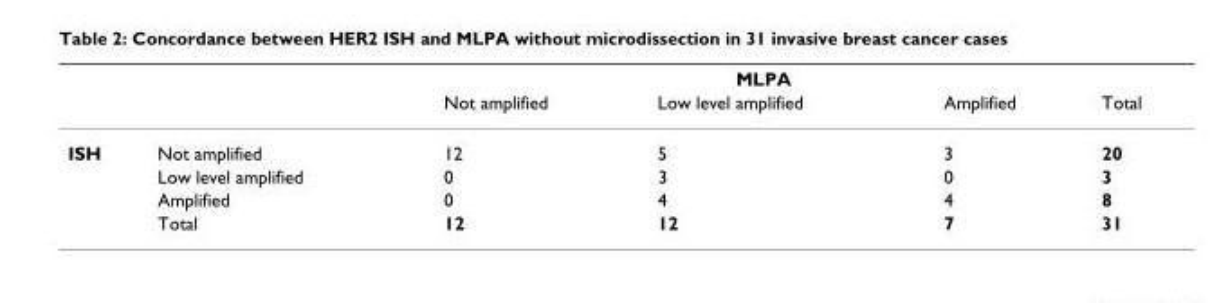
<table><thead><tr><td rowspan="2"></td><td rowspan="2"></td><td colspan="3">MLPA</td><td rowspan="2">Total</td></tr><tr><td>Not amplified</td><td>Low level amplified</td><td>Amplified</td></tr></thead><tbody><tr><td rowspan="4">ISH</td><td>Not amplified</td><td>12</td><td>5</td><td>3</td><td>20</td></tr><tr><td>Low level amplified</td><td>0</td><td>3</td><td>0</td><td>3</td></tr><tr><td>Amplified</td><td>0</td><td>4</td><td>4</td><td>8</td></tr><tr><td>Total</td><td>12</td><td>12</td><td>7</td><td>31</td></tr></tbody></table>